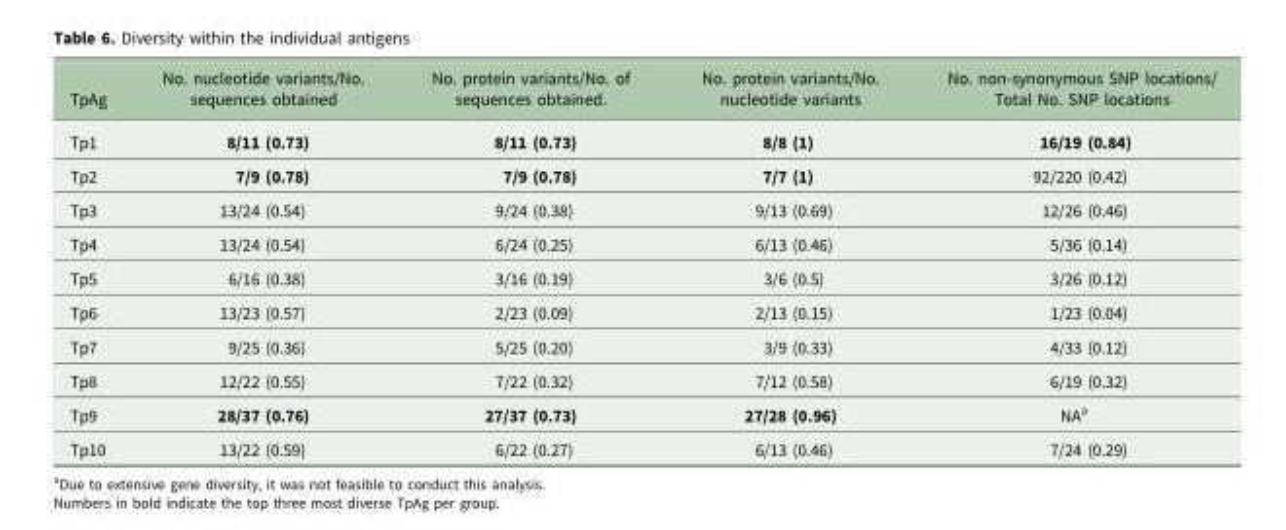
<table><thead><tr><td>TpAg</td><td>No. nucleotide variants/No. sequences obtained</td><td>No. protein variants/No. of sequences obtained.</td><td>No. protein variants/No. nucleotide variants</td><td>No. non-synonymous SNP locations/ Total No. SNP locations</td></tr></thead><tbody><tr><td>Tp1</td><td>8/11 (0.73)</td><td>8/11 (0.73)</td><td>8/8 (1)</td><td>16/19 (0.84)</td></tr><tr><td>Tp2</td><td>7/9 (0.78)</td><td>7/9 (0.78)</td><td>7/7 (1)</td><td>92/220 (0.42)</td></tr><tr><td>Tp3</td><td>13/24 (0.54)</td><td>9/24 (0.38)</td><td>9/13 (0.69)</td><td>12/26 (0.46)</td></tr><tr><td>Tp4</td><td>13/24 (0.54)</td><td>6/24 (0.25)</td><td>6/13 (0.46)</td><td>5/36 (0.14)</td></tr><tr><td>Tp5</td><td>6/16 (0.38)</td><td>3/16 (0.19)</td><td>3/6 (0.5)</td><td>3/26 (0.12)</td></tr><tr><td>Tp6</td><td>13/23 (0.57)</td><td>2/23 (0.09)</td><td>2/13 (0.15)</td><td>1/23 (0.04)</td></tr><tr><td>Tp7</td><td>9/25 (0.36)</td><td>5/25 (0.20)</td><td>3/9 (0.33)</td><td>4/33 (0.12)</td></tr><tr><td>Tp8</td><td>12/22 (0.55)</td><td>7/22 (0.32)</td><td>7/12 (0.58)</td><td>6/19 (0.32)</td></tr><tr><td>Tp9</td><td>28/37 (0.76)</td><td>27/37 (0.73)</td><td>27/28 (0.96)</td><td>NA<sup>a</sup></td></tr><tr><td>Tp10</td><td>13/22 (0.59)</td><td>6/22 (0.27)</td><td>6/13 (0.46)</td><td>7/24 (0.29)</td></tr></tbody></table>